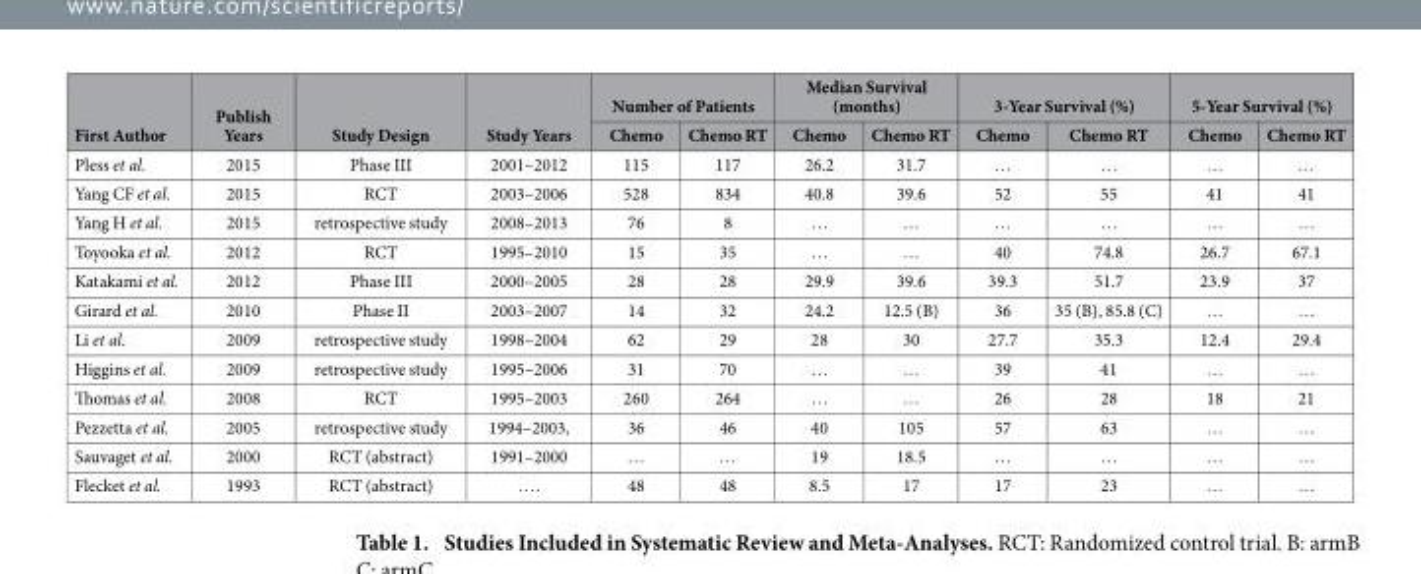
<table><thead><tr><td rowspan="2">First Author</td><td rowspan="2">Publish Years</td><td rowspan="2">Study Design</td><td rowspan="2">Study Years</td><td colspan="2">Number of Patients</td><td colspan="2">Median Survival (months)</td><td colspan="2">3-Year Survival (%)</td><td colspan="2">5-Year Survival (%)</td></tr><tr><td>Chemo</td><td>Chemo RT</td><td>Chemo</td><td>Chemo RT</td><td>Chemo</td><td>Chemo RT</td><td>Chemo</td><td>Chemo RT</td></tr></thead><tbody><tr><td>Pless et al.</td><td>2015</td><td>Phase III</td><td>2001–2012</td><td>115</td><td>117</td><td>26.2</td><td>31.7</td><td>…</td><td>…</td><td>…</td><td>…</td></tr><tr><td>Yang CF et al.</td><td>2015</td><td>RCT</td><td>2003–2006</td><td>528</td><td>834</td><td>40.8</td><td>39.6</td><td>52</td><td>55</td><td>41</td><td>41</td></tr><tr><td>Yang H et al.</td><td>2015</td><td>retrospective study</td><td>2008–2013</td><td>76</td><td>8</td><td>…</td><td>…</td><td>…</td><td>…</td><td>…</td><td>…</td></tr><tr><td>Toyooka et al.</td><td>2012</td><td>RCT</td><td>1995–2010</td><td>15</td><td>35</td><td>…</td><td>…</td><td>40</td><td>74.8</td><td>26.7</td><td>67.1</td></tr><tr><td>Katakami et al.</td><td>2012</td><td>Phase III</td><td>2000–2005</td><td>28</td><td>28</td><td>29.9</td><td>39.6</td><td>39.3</td><td>51.7</td><td>23.9</td><td>37</td></tr><tr><td>Girard et al.</td><td>2010</td><td>Phase II</td><td>2003–2007</td><td>14</td><td>32</td><td>24.2</td><td>12.5 (B)</td><td>36</td><td>35 (B), 85.8 (C)</td><td>…</td><td>…</td></tr><tr><td>Li et al.</td><td>2009</td><td>retrospective study</td><td>1998–2004</td><td>62</td><td>29</td><td>28</td><td>30</td><td>27.7</td><td>35.3</td><td>12.4</td><td>29.4</td></tr><tr><td>Higgins et al.</td><td>2009</td><td>retrospective study</td><td>1995–2006</td><td>31</td><td>70</td><td>…</td><td>…</td><td>39</td><td>41</td><td>…</td><td>…</td></tr><tr><td>Thomas et al.</td><td>2008</td><td>RCT</td><td>1995–2003</td><td>260</td><td>264</td><td>…</td><td>…</td><td>26</td><td>28</td><td>18</td><td>21</td></tr><tr><td>Pezzetta et al.</td><td>2005</td><td>retrospective study</td><td>1994–2003,</td><td>36</td><td>46</td><td>40</td><td>105</td><td>57</td><td>63</td><td>…</td><td>…</td></tr><tr><td>Sauvaget et al.</td><td>2000</td><td>RCT (abstract)</td><td>1991–2000</td><td>…</td><td>…</td><td>19</td><td>18.5</td><td>…</td><td>…</td><td>…</td><td>…</td></tr><tr><td>Flecket et al.</td><td>1993</td><td>RCT (abstract)</td><td>… .</td><td>48</td><td>48</td><td>8.5</td><td>17</td><td>17</td><td>23</td><td>…</td><td>…</td></tr></tbody></table>